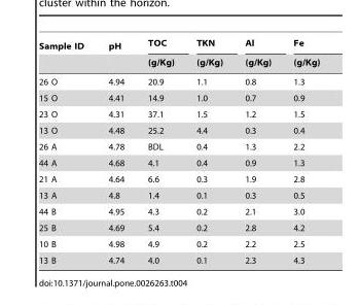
<table><thead><tr><td rowspan="2">Sample ID</td><td rowspan="2">pH</td><td rowspan="2">TOC (g/Kg)</td><td rowspan="2">TKN (g/Kg)</td><td rowspan="2">Al (g/Kg)</td><td rowspan="2">Fe (g/Kg)</td></tr><tr></tr></thead><tbody><tr><td>26 O</td><td>4.94</td><td>20.9</td><td>1.1</td><td>0.8</td><td>1.3</td></tr><tr><td>15 O</td><td>4.41</td><td>14.9</td><td>1.0</td><td>0.7</td><td>0.9</td></tr><tr><td>23 O</td><td>4.31</td><td>37.1</td><td>1.5</td><td>1.2</td><td>1.5</td></tr><tr><td>13 O</td><td>4.48</td><td>25.2</td><td>4.4</td><td>0.3</td><td>0.4</td></tr><tr><td>26 A</td><td>4.78</td><td>BDL</td><td>0.4</td><td>1.3</td><td>2.2</td></tr><tr><td>44 A</td><td>4.68</td><td>4.1</td><td>0.4</td><td>0.9</td><td>1.3</td></tr><tr><td>21 A</td><td>4.64</td><td>6.6</td><td>0.3</td><td>1.9</td><td>2.8</td></tr><tr><td>13 A</td><td>4.8</td><td>1.4</td><td>0.1</td><td>0.3</td><td>0.5</td></tr><tr><td>44 B</td><td>4.95</td><td>4.3</td><td>0.2</td><td>2.1</td><td>3.0</td></tr><tr><td>25 B</td><td>4.69</td><td>5.4</td><td>0.2</td><td>2.8</td><td>4.2</td></tr><tr><td>10 B</td><td>4.98</td><td>4.9</td><td>0.2</td><td>2.2</td><td>2.5</td></tr><tr><td>13 B</td><td>4.74</td><td>4.0</td><td>0.1</td><td>2.3</td><td>4.3</td></tr></tbody></table>